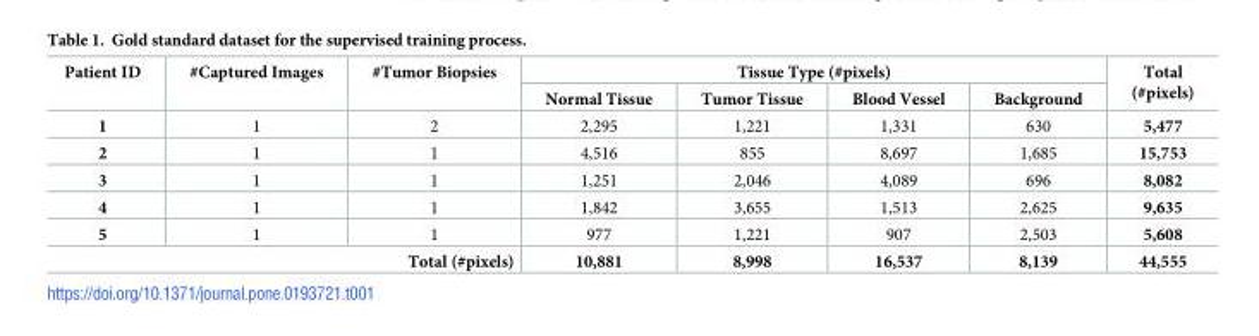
<table><thead><tr><td rowspan="2">Patient ID</td><td rowspan="2">#Captured Images</td><td rowspan="2">#Tumor Biopsies</td><td colspan="4">Tissue Type (#pixels)</td><td rowspan="2">Total (#pixels)</td></tr><tr><td>Normal Tissue</td><td>Tumor Tissue</td><td>Blood Vessel</td><td>Background</td></tr></thead><tbody><tr><td>1</td><td>1</td><td>2</td><td>2,295</td><td>1,221</td><td>1,331</td><td>630</td><td>5,477</td></tr><tr><td>2</td><td>1</td><td>1</td><td>4,516</td><td>855</td><td>8,697</td><td>1,685</td><td>15,753</td></tr><tr><td>3</td><td>1</td><td>1</td><td>1,251</td><td>2,046</td><td>4,089</td><td>696</td><td>8,082</td></tr><tr><td>4</td><td>1</td><td>1</td><td>1,842</td><td>3,655</td><td>1,513</td><td>2,625</td><td>9,635</td></tr><tr><td>5</td><td>1</td><td>1</td><td>977</td><td>1,221</td><td>907</td><td>2,503</td><td>5,608</td></tr><tr><td colspan="3">Total (#pixels)</td><td>10,881</td><td>8,998</td><td>16,537</td><td>8,139</td><td>44,555</td></tr></tbody></table>